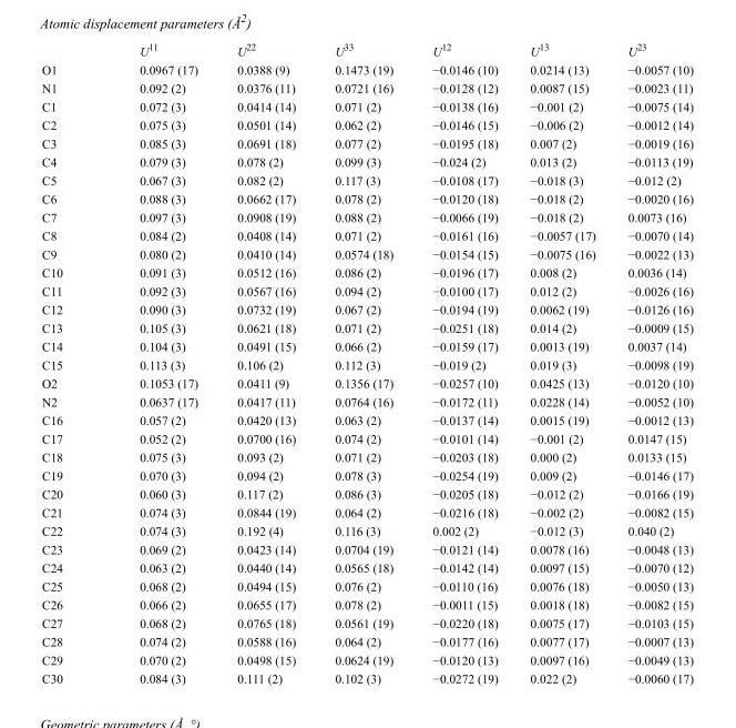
<table><thead><tr><td></td><td>U<sup>11</sup></td><td>U<sup>22</sup></td><td>U<sup>33</sup></td><td>U<sup>12</sup></td><td>U<sup>13</sup></td><td>U<sup>23</sup></td></tr></thead><tbody><tr><td>O1</td><td>0.0967 (17)</td><td>0.0388 (9)</td><td>0.1473 (19)</td><td>−0.0146 (10)</td><td>0.0214 (13)</td><td>−0.0057 (10)</td></tr><tr><td>N1</td><td>0.092 (2)</td><td>0.0376 (11)</td><td>0.0721 (16)</td><td>−0.0128 (12)</td><td>0.0087 (15)</td><td>−0.0023 (11)</td></tr><tr><td>C1</td><td>0.072 (3)</td><td>0.0414 (14)</td><td>0.071 (2)</td><td>−0.0138 (16)</td><td>−0.001 (2)</td><td>−0.0075 (14)</td></tr><tr><td>C2</td><td>0.075 (3)</td><td>0.0501 (14)</td><td>0.062 (2)</td><td>−0.0146 (15)</td><td>−0.006 (2)</td><td>−0.0012 (14)</td></tr><tr><td>C3</td><td>0.085 (3)</td><td>0.0691 (18)</td><td>0.077 (2)</td><td>−0.0195 (18)</td><td>0.007 (2)</td><td>−0.0019 (16)</td></tr><tr><td>C4</td><td>0.079 (3)</td><td>0.078 (2)</td><td>0.099 (3)</td><td>−0.024 (2)</td><td>0.013 (2)</td><td>−0.0113 (19)</td></tr><tr><td>C5</td><td>0.067 (3)</td><td>0.082 (2)</td><td>0.117 (3)</td><td>−0.0108 (17)</td><td>−0.018 (3)</td><td>−0.012 (2)</td></tr><tr><td>C6</td><td>0.088 (3)</td><td>0.0662 (17)</td><td>0.078 (2)</td><td>−0.0120 (18)</td><td>−0.018 (2)</td><td>−0.0020 (16)</td></tr><tr><td>C7</td><td>0.097 (3)</td><td>0.0908 (19)</td><td>0.088 (2)</td><td>−0.0066 (19)</td><td>−0.018 (2)</td><td>0.0073 (16)</td></tr><tr><td>C8</td><td>0.084 (2)</td><td>0.0408 (14)</td><td>0.071 (2)</td><td>−0.0161 (16)</td><td>−0.0057 (17)</td><td>−0.0070 (14)</td></tr><tr><td>C9</td><td>0.080 (2)</td><td>0.0410 (14)</td><td>0.0574 (18)</td><td>−0.0154 (15)</td><td>−0.0075 (16)</td><td>−0.0022 (13)</td></tr><tr><td>C10</td><td>0.091 (3)</td><td>0.0512 (16)</td><td>0.086 (2)</td><td>−0.0196 (17)</td><td>0.008 (2)</td><td>0.0036 (14)</td></tr><tr><td>C11</td><td>0.092 (3)</td><td>0.0567 (16)</td><td>0.094 (2)</td><td>−0.0100 (17)</td><td>0.012 (2)</td><td>−0.0026 (16)</td></tr><tr><td>C12</td><td>0.090 (3)</td><td>0.0732 (19)</td><td>0.067 (2)</td><td>−0.0194 (19)</td><td>0.0062 (19)</td><td>−0.0126 (16)</td></tr><tr><td>C13</td><td>0.105 (3)</td><td>0.0621 (18)</td><td>0.071 (2)</td><td>−0.0251 (18)</td><td>0.014 (2)</td><td>−0.0009 (15)</td></tr><tr><td>C14</td><td>0.104 (3)</td><td>0.0491 (15)</td><td>0.066 (2)</td><td>−0.0159 (17)</td><td>0.0013 (19)</td><td>0.0037 (14)</td></tr><tr><td>C15</td><td>0.113 (3)</td><td>0.106 (2)</td><td>0.112 (3)</td><td>−0.019 (2)</td><td>0.019 (3)</td><td>−0.0098 (19)</td></tr><tr><td>O2</td><td>0.1053 (17)</td><td>0.0411 (9)</td><td>0.1356 (17)</td><td>−0.0257 (10)</td><td>0.0425 (13)</td><td>−0.0120 (10)</td></tr><tr><td>N2</td><td>0.0637 (17)</td><td>0.0417 (11)</td><td>0.0764 (16)</td><td>−0.0172 (11)</td><td>0.0228 (14)</td><td>−0.0052 (10)</td></tr><tr><td>C16</td><td>0.057 (2)</td><td>0.0420 (13)</td><td>0.063 (2)</td><td>−0.0137 (14)</td><td>0.0015 (19)</td><td>−0.0012 (13)</td></tr><tr><td>C17</td><td>0.052 (2)</td><td>0.0700 (16)</td><td>0.074 (2)</td><td>−0.0101 (14)</td><td>−0.001 (2)</td><td>0.0147 (15)</td></tr><tr><td>C18</td><td>0.075 (3)</td><td>0.093 (2)</td><td>0.071 (2)</td><td>−0.0203 (18)</td><td>0.000 (2)</td><td>0.0133 (15)</td></tr><tr><td>C19</td><td>0.070 (3)</td><td>0.094 (2)</td><td>0.078 (3)</td><td>−0.0254 (19)</td><td>0.009 (2)</td><td>−0.0146 (17)</td></tr><tr><td>C20</td><td>0.060 (3)</td><td>0.117 (2)</td><td>0.086 (3)</td><td>−0.0205 (18)</td><td>−0.012 (2)</td><td>−0.0166 (19)</td></tr><tr><td>C21</td><td>0.074 (3)</td><td>0.0844 (19)</td><td>0.064 (2)</td><td>−0.0216 (18)</td><td>−0.002 (2)</td><td>−0.0082 (15)</td></tr><tr><td>C22</td><td>0.074 (3)</td><td>0.192 (4)</td><td>0.116 (3)</td><td>0.002 (2)</td><td>−0.012 (3)</td><td>0.040 (2)</td></tr><tr><td>C23</td><td>0.069 (2)</td><td>0.0423 (14)</td><td>0.0704 (19)</td><td>−0.0121 (14)</td><td>0.0078 (16)</td><td>−0.0048 (13)</td></tr><tr><td>C24</td><td>0.063 (2)</td><td>0.0440 (14)</td><td>0.0565 (18)</td><td>−0.0142 (14)</td><td>0.0097 (15)</td><td>−0.0070 (12)</td></tr><tr><td>C25</td><td>0.068 (2)</td><td>0.0494 (15)</td><td>0.076 (2)</td><td>−0.0110 (16)</td><td>0.0076 (18)</td><td>−0.0050 (13)</td></tr><tr><td>C26</td><td>0.066 (2)</td><td>0.0655 (17)</td><td>0.078 (2)</td><td>−0.0011 (15)</td><td>0.0018 (18)</td><td>−0.0082 (15)</td></tr><tr><td>C27</td><td>0.068 (2)</td><td>0.0765 (18)</td><td>0.0561 (19)</td><td>−0.0220 (18)</td><td>0.0075 (17)</td><td>−0.0103 (15)</td></tr><tr><td>C28</td><td>0.074 (2)</td><td>0.0588 (16)</td><td>0.064 (2)</td><td>−0.0177 (16)</td><td>0.0077 (17)</td><td>−0.0007 (13)</td></tr><tr><td>C29</td><td>0.070 (2)</td><td>0.0498 (15)</td><td>0.0624 (19)</td><td>−0.0120 (13)</td><td>0.0097 (16)</td><td>−0.0049 (13)</td></tr><tr><td>C30</td><td>0.084 (3)</td><td>0.111 (2)</td><td>0.102 (3)</td><td>−0.0272 (19)</td><td>0.022 (2)</td><td>−0.0060 (17)</td></tr></tbody></table>